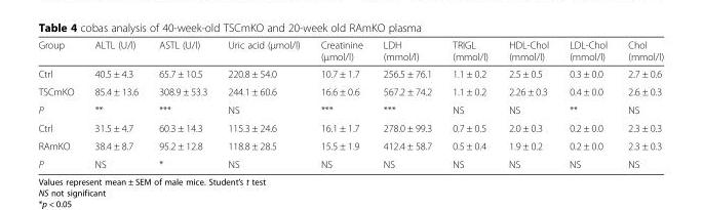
<table><thead><tr><td>Group</td><td>ALTL (U/l)</td><td>ASTL (U/l)</td><td>Uric acid (μmol/l)</td><td>Creatinine (μmol/l)</td><td>LDH (mmol/l)</td><td>TRIGL (mmol/l)</td><td>HDL-Chol (mmol/l)</td><td>LDL-Chol (mmol/l)</td><td>Chol (mmol/l)</td></tr></thead><tbody><tr><td>Ctrl</td><td>40.5 ± 4.3</td><td>65.7 ± 10.5</td><td>220.8 ± 54.0</td><td>10.7 ± 1.7</td><td>256.5 ± 76.1</td><td>1.1 ± 0.2</td><td>2.5 ± 0.5</td><td>0.3 ± 0.0</td><td>2.7 ± 0.6</td></tr><tr><td>TSCmKO</td><td>85.4 ± 13.6</td><td>308.9 ± 53.3</td><td>244.1 ± 60.6</td><td>16.6 ± 0.6</td><td>567.2 ± 74.2</td><td>1.1 ± 0.2</td><td>2.26 ± 0.3</td><td>0.4 ± 0.0</td><td>2.6 ± 0.3</td></tr><tr><td>P</td><td>**</td><td>***</td><td>NS</td><td>***</td><td>***</td><td>NS</td><td>NS</td><td>**</td><td>NS</td></tr><tr><td>Ctrl</td><td>31.5 ± 4.7</td><td>60.3 ± 14.3</td><td>115.3 ± 24.6</td><td>16.1 ± 1.7</td><td>278.0 ± 99.3</td><td>0.7 ± 0.5</td><td>2.0 ± 0.3</td><td>0.2 ± 0.0</td><td>2.3 ± 0.3</td></tr><tr><td>RAmKO</td><td>38.4 ± 8.7</td><td>95.2 ± 12.8</td><td>118.8 ± 28.5</td><td>15.5 ± 1.9</td><td>412.4 ± 58.7</td><td>0.5 ± 0.4</td><td>1.9 ± 0.2</td><td>0.2 ± 0.0</td><td>2.3 ± 0.3</td></tr><tr><td>P</td><td>NS</td><td>*</td><td>NS</td><td>NS</td><td>NS</td><td>NS</td><td>NS</td><td>NS</td><td>NS</td></tr></tbody></table>